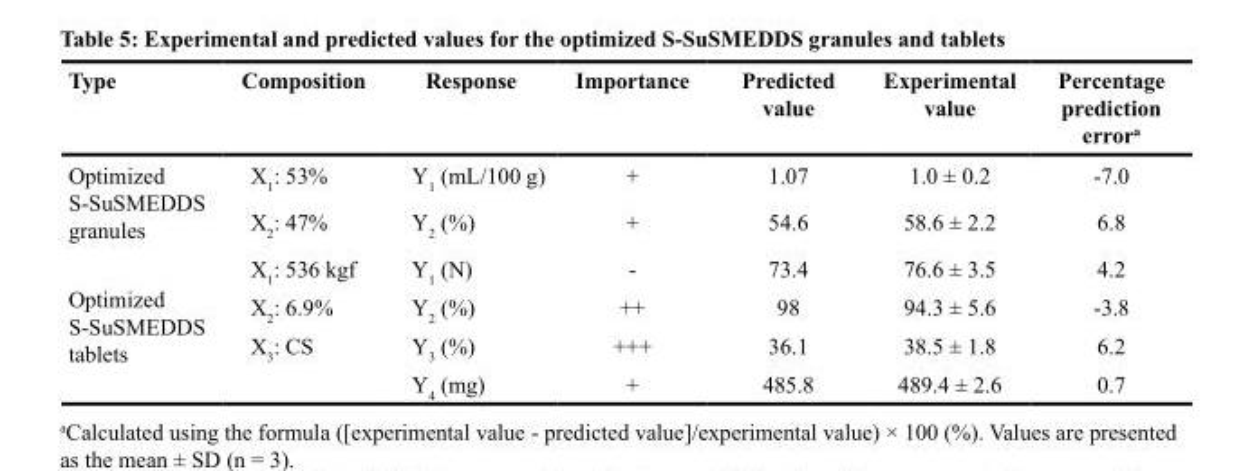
<table><thead><tr><td>Type</td><td>Composition</td><td>Response</td><td>Importance</td><td>Predicted value</td><td>Experimental value</td><td>Percentage prediction error<sup>a</sup></td></tr></thead><tbody><tr><td rowspan="2">Optimized S-SuSMEDDS granules</td><td>X<sub>1</sub>: 53%</td><td>Y<sub>1</sub> (mL/100 g)</td><td>+</td><td>1.07</td><td>1.0 ± 0.2</td><td>-7.0</td></tr><tr><td>X<sub>2</sub>: 47%</td><td>Y<sub>2</sub> (%)</td><td>+</td><td>54.6</td><td>58.6 ± 2.2</td><td>6.8</td></tr><tr><td rowspan="4">Optimized S-SuSMEDDS tablets</td><td>X<sub>1</sub>: 536 kgf</td><td>Y<sub>1</sub> (N)</td><td>-</td><td>73.4</td><td>76.6 ± 3.5</td><td>4.2</td></tr><tr><td>X<sub>2</sub>: 6.9%</td><td>Y<sub>2</sub> (%)</td><td>++</td><td>98</td><td>94.3 ± 5.6</td><td>-3.8</td></tr><tr><td>X<sub>3</sub>: CS</td><td>Y<sub>3</sub> (%)</td><td>+++</td><td>36.1</td><td>38.5 ± 1.8</td><td>6.2</td></tr><tr><td></td><td>Y<sub>4</sub> (mg)</td><td>+</td><td>485.8</td><td>489.4 ± 2.6</td><td>0.7</td></tr></tbody></table>